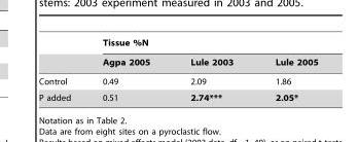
<table><thead><tr><td rowspan="2"></td><td colspan="3">Tissue %N</td></tr><tr><td>Agpa 2005</td><td>Lule 2003</td><td>Lule 2005</td></tr></thead><tbody><tr><td>Control</td><td>0.49</td><td>2.09</td><td>1.86</td></tr><tr><td>P added</td><td>0.51</td><td>2.74***</td><td>2.05*</td></tr></tbody></table>